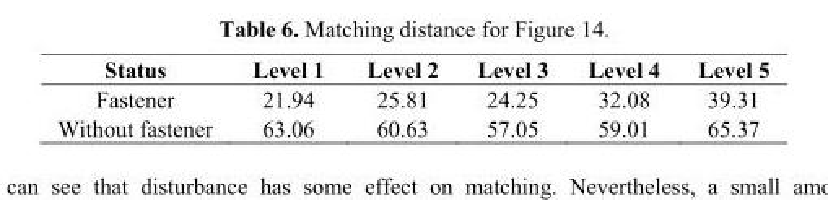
<table><thead><tr><td>Status</td><td>Level 1</td><td>Level 2</td><td>Level 3</td><td>Level 4</td><td>Level 5</td></tr></thead><tbody><tr><td>Fastener</td><td>21.94</td><td>25.81</td><td>24.25</td><td>32.08</td><td>39.31</td></tr><tr><td>Without fastener</td><td>63.06</td><td>60.63</td><td>57.05</td><td>59.01</td><td>65.37</td></tr></tbody></table>